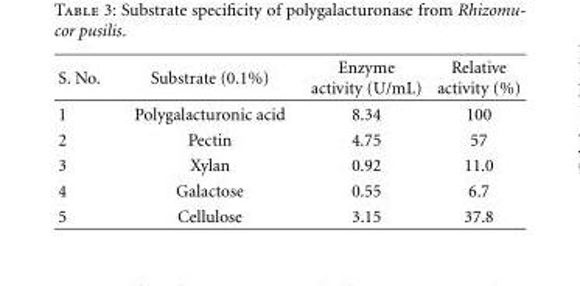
<table><thead><tr><td>S. No.</td><td>Substrate (0.1%)</td><td>Enzyme activity (U/mL)</td><td>Relative activity (%)</td></tr></thead><tbody><tr><td>1</td><td>Polygalacturonic acid</td><td>8.34</td><td>100</td></tr><tr><td>2</td><td>Pectin</td><td>4.75</td><td>57</td></tr><tr><td>3</td><td>Xylan</td><td>0.92</td><td>11.0</td></tr><tr><td>4</td><td>Galactose</td><td>0.55</td><td>6.7</td></tr><tr><td>5</td><td>Cellulose</td><td>3.15</td><td>37.8</td></tr></tbody></table>